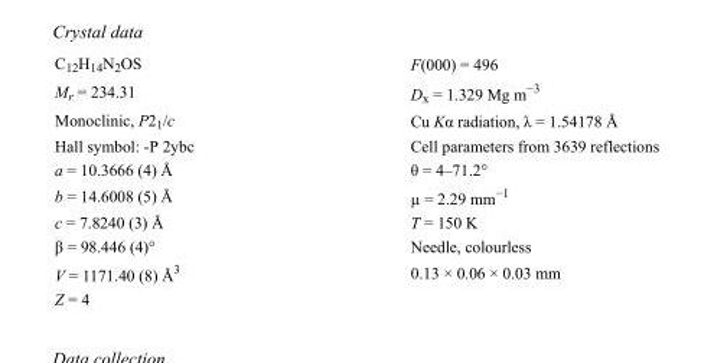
<table><tbody><tr><td>C<sub>12</sub>H<sub>14</sub>N<sub>2</sub>OS</td><td>F(000) = 496</td></tr><tr><td>M<sub>r</sub> = 234.31</td><td>D<sub>x</sub> = 1.329 Mg m<sup>−3</sup></td></tr><tr><td>Monoclinic, P2<sub>1</sub>/c</td><td>Cu Kα radiation, λ = 1.54178 Å</td></tr><tr><td>Hall symbol: -P 2ybc</td><td>Cell parameters from 3639 reflections</td></tr><tr><td>a = 10.3666 (4) Å</td><td>θ = 4–71.2°</td></tr><tr><td>b = 14.6008 (5) Å</td><td>µ = 2.29 mm<sup>−1</sup></td></tr><tr><td>c = 7.8240 (3) Å</td><td>T = 150 K</td></tr><tr><td>β = 98.446 (4)°</td><td>Needle, colourless</td></tr><tr><td>V = 1171.40 (8) Å<sup>3</sup></td><td>0.13 × 0.06 × 0.03 mm</td></tr><tr><td>Z = 4</td><td></td></tr></tbody></table>